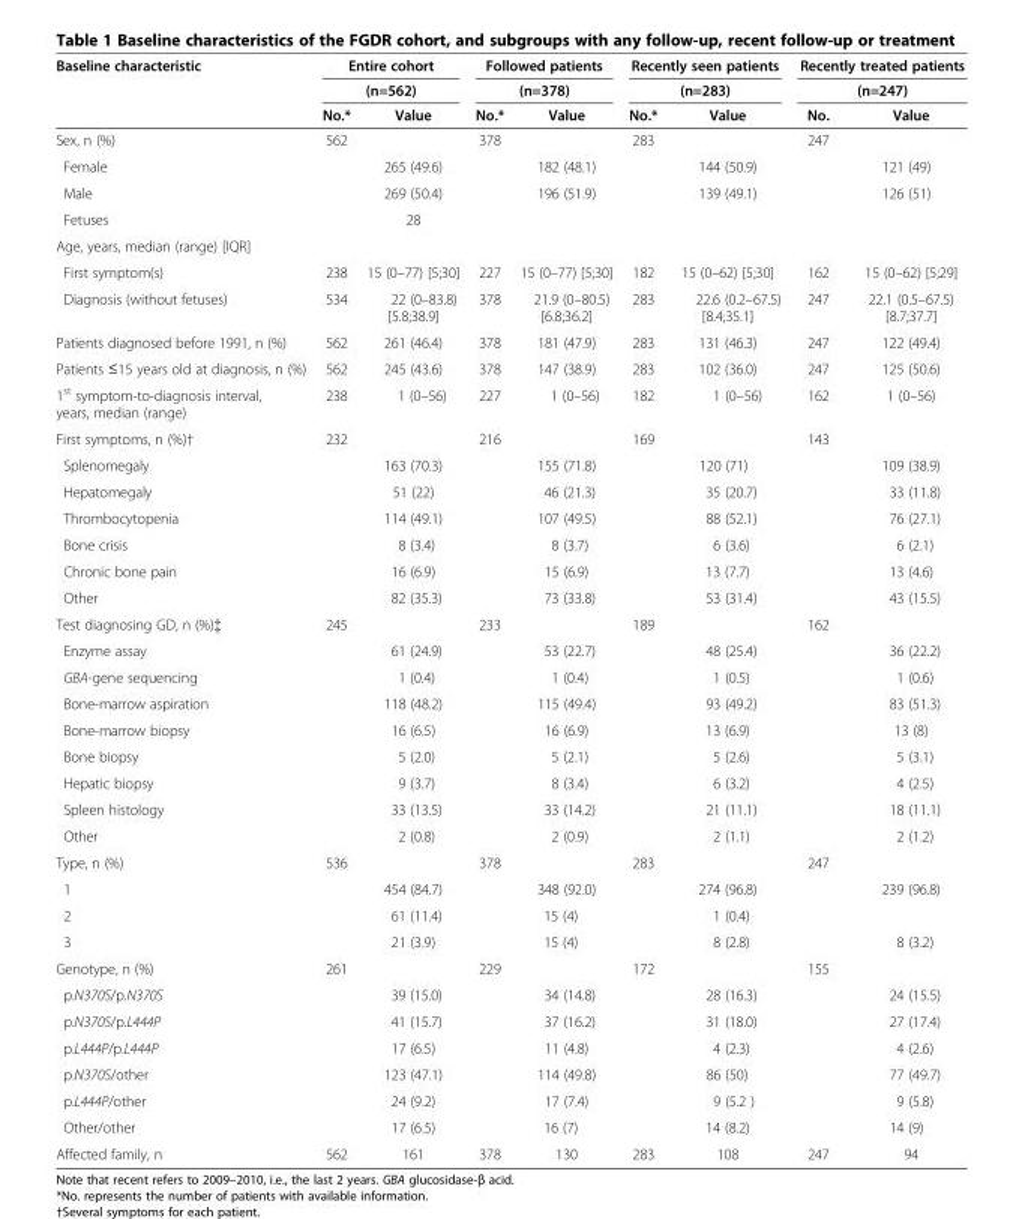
<table><thead><tr><td rowspan="3">Baseline characteristic</td><td rowspan="2" colspan="2">Entire cohort (n=562)</td><td rowspan="2" colspan="2">Followed patients (n=378)</td><td rowspan="2" colspan="2">Recently seen patients (n=283)</td><td rowspan="2" colspan="2">Recently treated patients (n=247)</td></tr><tr></tr><tr><td>No.*</td><td>Value</td><td>No.*</td><td>Value</td><td>No.*</td><td>Value</td><td>No.</td><td>Value</td></tr></thead><tbody><tr><td>Sex, n (%)</td><td>562</td><td></td><td>378</td><td></td><td>283</td><td></td><td>247</td><td></td></tr><tr><td>Female</td><td></td><td>265 (49.6)</td><td></td><td>182 (48.1)</td><td></td><td>144 (50.9)</td><td></td><td>121 (49)</td></tr><tr><td>Male</td><td></td><td>269 (50.4)</td><td></td><td>196 (51.9)</td><td></td><td>139 (49.1)</td><td></td><td>126 (51)</td></tr><tr><td>Fetuses</td><td></td><td>28</td><td></td><td></td><td></td><td></td><td></td><td></td></tr><tr><td colspan="9">Age, years, median (range) [IQR]</td></tr><tr><td>First symptom(s)</td><td>238</td><td>15 (0–77) [5;30]</td><td>227</td><td>15 (0–77) [5;30]</td><td>182</td><td>15 (0–62) [5;30]</td><td>162</td><td>15 (0–62) [5;29]</td></tr><tr><td>Diagnosis (without fetuses)</td><td>534</td><td>22 (0–83.8) [5.8;38.9]</td><td>378</td><td>21.9 (0–80.5) [6.8;36.2]</td><td>283</td><td>22.6 (0.2–67.5) [8.4;35.1]</td><td>247</td><td>22.1 (0.5–67.5) [8.7;37.7]</td></tr><tr><td>Patients diagnosed before 1991, n (%)</td><td>562</td><td>261 (46.4)</td><td>378</td><td>181 (47.9)</td><td>283</td><td>131 (46.3)</td><td>247</td><td>122 (49.4)</td></tr><tr><td>Patients ≤15 years old at diagnosis, n (%)</td><td>562</td><td>245 (43.6)</td><td>378</td><td>147 (38.9)</td><td>283</td><td>102 (36.0)</td><td>247</td><td>125 (50.6)</td></tr><tr><td>1<sup>st</sup> symptom-to-diagnosis interval, years, median (range)</td><td>238</td><td>1 (0–56)</td><td>227</td><td>1 (0–56)</td><td>182</td><td>1 (0–56)</td><td>162</td><td>1 (0–56)</td></tr><tr><td>First symptoms, n (%)†</td><td>232</td><td></td><td>216</td><td></td><td>169</td><td></td><td>143</td><td></td></tr><tr><td>Splenomegaly</td><td></td><td>163 (70.3)</td><td></td><td>155 (71.8)</td><td></td><td>120 (71)</td><td></td><td>109 (38.9)</td></tr><tr><td>Hepatomegaly</td><td></td><td>51 (22)</td><td></td><td>46 (21.3)</td><td></td><td>35 (20.7)</td><td></td><td>33 (11.8)</td></tr><tr><td>Thrombocytopenia</td><td></td><td>114 (49.1)</td><td></td><td>107 (49.5)</td><td></td><td>88 (52.1)</td><td></td><td>76 (27.1)</td></tr><tr><td>Bone crisis</td><td></td><td>8 (3.4)</td><td></td><td>8 (3.7)</td><td></td><td>6 (3.6)</td><td></td><td>6 (2.1)</td></tr><tr><td>Chronic bone pain</td><td></td><td>16 (6.9)</td><td></td><td>15 (6.9)</td><td></td><td>13 (7.7)</td><td></td><td>13 (4.6)</td></tr><tr><td>Other</td><td></td><td>82 (35.3)</td><td></td><td>73 (33.8)</td><td></td><td>53 (31.4)</td><td></td><td>43 (15.5)</td></tr><tr><td>Test diagnosing GD, n (%)‡</td><td>245</td><td></td><td>233</td><td></td><td>189</td><td></td><td>162</td><td></td></tr><tr><td>Enzyme assay</td><td></td><td>61 (24.9)</td><td></td><td>53 (22.7)</td><td></td><td>48 (25.4)</td><td></td><td>36 (22.2)</td></tr><tr><td>GBA-gene sequencing</td><td></td><td>1 (0.4)</td><td></td><td>1 (0.4)</td><td></td><td>1 (0.5)</td><td></td><td>1 (0.6)</td></tr><tr><td>Bone-marrow aspiration</td><td></td><td>118 (48.2)</td><td></td><td>115 (49.4)</td><td></td><td>93 (49.2)</td><td></td><td>83 (51.3)</td></tr><tr><td>Bone-marrow biopsy</td><td></td><td>16 (6.5)</td><td></td><td>16 (6.9)</td><td></td><td>13 (6.9)</td><td></td><td>13 (8)</td></tr><tr><td>Bone biopsy</td><td></td><td>5 (2.0)</td><td></td><td>5 (2.1)</td><td></td><td>5 (2.6)</td><td></td><td>5 (3.1)</td></tr><tr><td>Hepatic biopsy</td><td></td><td>9 (3.7)</td><td></td><td>8 (3.4)</td><td></td><td>6 (3.2)</td><td></td><td>4 (2.5)</td></tr><tr><td>Spleen histology</td><td></td><td>33 (13.5)</td><td></td><td>33 (14.2)</td><td></td><td>21 (11.1)</td><td></td><td>18 (11.1)</td></tr><tr><td>Other</td><td></td><td>2 (0.8)</td><td></td><td>2 (0.9)</td><td></td><td>2 (1.1)</td><td></td><td>2 (1.2)</td></tr><tr><td>Type, n (%)</td><td>536</td><td></td><td>378</td><td></td><td>283</td><td></td><td>247</td><td></td></tr><tr><td>1</td><td></td><td>454 (84.7)</td><td></td><td>348 (92.0)</td><td></td><td>274 (96.8)</td><td></td><td>239 (96.8)</td></tr><tr><td>2</td><td></td><td>61 (11.4)</td><td></td><td>15 (4)</td><td></td><td>1 (0.4)</td><td></td><td></td></tr><tr><td>3</td><td></td><td>21 (3.9)</td><td></td><td>15 (4)</td><td></td><td>8 (2.8)</td><td></td><td>8 (3.2)</td></tr><tr><td>Genotype, n (%)</td><td>261</td><td></td><td>229</td><td></td><td>172</td><td></td><td>155</td><td></td></tr><tr><td>p.N370S/p.N370S</td><td></td><td>39 (15.0)</td><td></td><td>34 (14.8)</td><td></td><td>28 (16.3)</td><td></td><td>24 (15.5)</td></tr><tr><td>p.N370S/p.L444P</td><td></td><td>41 (15.7)</td><td></td><td>37 (16.2)</td><td></td><td>31 (18.0)</td><td></td><td>27 (17.4)</td></tr><tr><td>p.L444P/p.L444P</td><td></td><td>17 (6.5)</td><td></td><td>11 (4.8)</td><td></td><td>4 (2.3)</td><td></td><td>4 (2.6)</td></tr><tr><td>p.N370S/other</td><td></td><td>123 (47.1)</td><td></td><td>114 (49.8)</td><td></td><td>86 (50)</td><td></td><td>77 (49.7)</td></tr><tr><td>p.L444P/other</td><td></td><td>24 (9.2)</td><td></td><td>17 (7.4)</td><td></td><td>9 (5.2 )</td><td></td><td>9 (5.8)</td></tr><tr><td>Other/other</td><td></td><td>17 (6.5)</td><td></td><td>16 (7)</td><td></td><td>14 (8.2)</td><td></td><td>14 (9)</td></tr><tr><td>Affected family, n</td><td>562</td><td>161</td><td>378</td><td>130</td><td>283</td><td>108</td><td>247</td><td>94</td></tr></tbody></table>